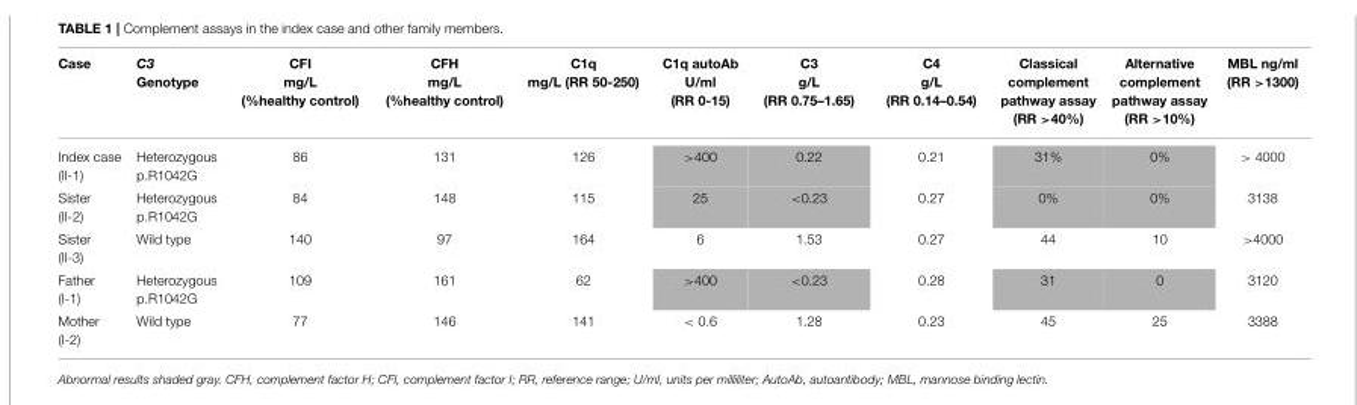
<table><thead><tr><td>Case</td><td>C3 Genotype</td><td>CFI mg/L (%healthy control)</td><td>CFH mg/L (%healthy control)</td><td>C1q mg/L (RR 50-250)</td><td>C1q autoAb U/ml (RR 0-15)</td><td>C3 g/L (RR 0.75–1.65)</td><td>C4 g/L (RR 0.14–0.54)</td><td>Classical complement pathway assay (RR &gt;40%)</td><td>Alternative complement pathway assay (RR &gt;10%)</td><td>MBL ng/ml (RR &gt;1300)</td></tr></thead><tbody><tr><td>Index case (II-1)</td><td>Heterozygous p.R1042G</td><td>86</td><td>131</td><td>126</td><td>&gt;400</td><td>0.22</td><td>0.21</td><td>31%</td><td>0%</td><td>&gt; 4000</td></tr><tr><td>Sister (II-2)</td><td>Heterozygous p.R1042G</td><td>84</td><td>148</td><td>115</td><td>25</td><td>&lt;0.23</td><td>0.27</td><td>0%</td><td>0%</td><td>3138</td></tr><tr><td>Sister (II-3)</td><td>Wild type</td><td>140</td><td>97</td><td>164</td><td>6</td><td>1.53</td><td>0.27</td><td>44</td><td>10</td><td>&gt;4000</td></tr><tr><td>Father (I-1)</td><td>Heterozygous p.R1042G</td><td>109</td><td>161</td><td>62</td><td>&gt;400</td><td>&lt;0.23</td><td>0.28</td><td>31</td><td>0</td><td>3120</td></tr><tr><td>Mother (I-2)</td><td>Wild type</td><td>77</td><td>146</td><td>141</td><td>&lt; 0.6</td><td>1.28</td><td>0.23</td><td>45</td><td>25</td><td>3388</td></tr></tbody></table>